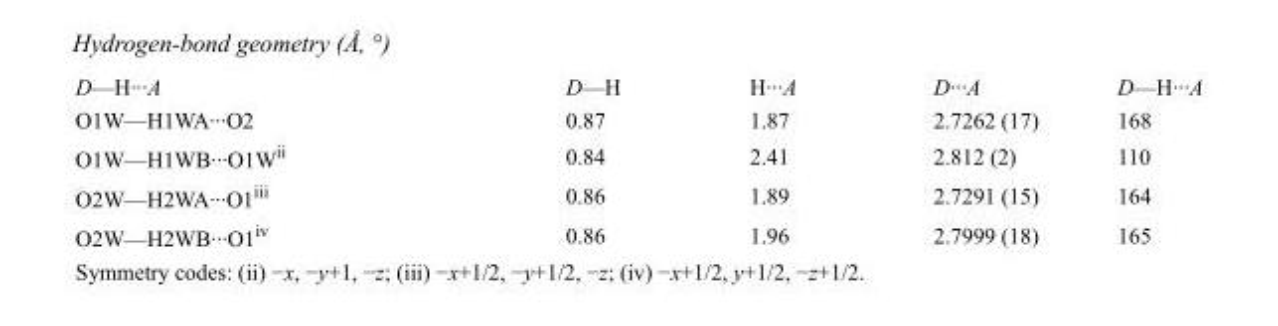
<table><tbody><tr><td>D—H···A</td><td>D—H</td><td>H···A</td><td>D···A</td><td>D—H···A</td></tr><tr><td>O1W—H1WA···O2</td><td>0.87</td><td>1.87</td><td>2.7262 (17)</td><td>168</td></tr><tr><td>O1W—H1WB···O1W<sup>ii</sup></td><td>0.84</td><td>2.41</td><td>2.812 (2)</td><td>110</td></tr><tr><td>O2W—H2WA···O1<sup>iii</sup></td><td>0.86</td><td>1.89</td><td>2.7291 (15)</td><td>164</td></tr><tr><td>O2W—H2WB···O1<sup>iv</sup></td><td>0.86</td><td>1.96</td><td>2.7999 (18)</td><td>165</td></tr></tbody></table>